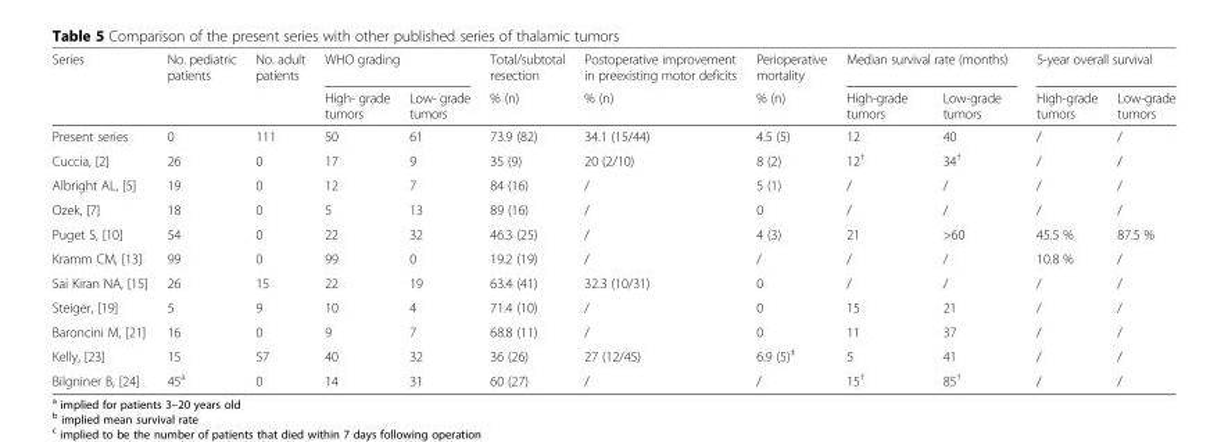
<table><thead><tr><td rowspan="2">Series</td><td rowspan="2">No. pediatric patients</td><td rowspan="2">No. adult patients</td><td colspan="2">WHO grading</td><td rowspan="2">Total/subtotal resection % (n)</td><td rowspan="2">Postoperative improvement in preexisting motor deficits % (n)</td><td rowspan="2">Perioperative mortality % (n)</td><td colspan="2">Median survival rate (months)</td><td colspan="2">5-year overall survival</td></tr><tr><td>High- grade tumors</td><td>Low- grade tumors</td><td>High-grade tumors</td><td>Low-grade tumors</td><td>High-grade tumors</td><td>Low-grade tumors</td></tr></thead><tbody><tr><td>Present series</td><td>0</td><td>111</td><td>50</td><td>61</td><td>73.9 (82)</td><td>34.1 (15/44)</td><td>4.5 (5)</td><td>12</td><td>40</td><td>/</td><td>/</td></tr><tr><td>Cuccia, [2]</td><td>26</td><td>0</td><td>17</td><td>9</td><td>35 (9)</td><td>20 (2/10)</td><td>8 (2)</td><td>12<sup>†</sup></td><td>34<sup>†</sup></td><td>/</td><td>/</td></tr><tr><td>Albright AL, [5]</td><td>19</td><td>0</td><td>12</td><td>7</td><td>84 (16)</td><td>/</td><td>5 (1)</td><td>/</td><td>/</td><td>/</td><td>/</td></tr><tr><td>Ozek, [7]</td><td>18</td><td>0</td><td>5</td><td>13</td><td>89 (16)</td><td>/</td><td>0</td><td>/</td><td>/</td><td>/</td><td>/</td></tr><tr><td>Puget S, [10]</td><td>54</td><td>0</td><td>22</td><td>32</td><td>46.3 (25)</td><td>/</td><td>4 (3)</td><td>21</td><td>&gt;60</td><td>45.5 %</td><td>87.5 %</td></tr><tr><td>Kramm CM, [13]</td><td>99</td><td>0</td><td>99</td><td>0</td><td>19.2 (19)</td><td>/</td><td>/</td><td>/</td><td>/</td><td>10.8 %</td><td>/</td></tr><tr><td>Sai Kiran NA, [15]</td><td>26</td><td>15</td><td>22</td><td>19</td><td>63.4 (41)</td><td>32.3 (10/31)</td><td>0</td><td>/</td><td>/</td><td>/</td><td>/</td></tr><tr><td>Steiger, [19]</td><td>5</td><td>9</td><td>10</td><td>4</td><td>71.4 (10)</td><td>/</td><td>0</td><td>15</td><td>21</td><td>/</td><td>/</td></tr><tr><td>Baroncini M, [21]</td><td>16</td><td>0</td><td>9</td><td>7</td><td>68.8 (11)</td><td>/</td><td>0</td><td>11</td><td>37</td><td>/</td><td>/</td></tr><tr><td>Kelly, [23]</td><td>15</td><td>57</td><td>40</td><td>32</td><td>36 (26)</td><td>27 (12/45)</td><td>6.9 (5)<sup>‡</sup></td><td>5</td><td>41</td><td>/</td><td>/</td></tr><tr><td>Bilgniner B, [24]</td><td>45<sup>a</sup></td><td>0</td><td>14</td><td>31</td><td>60 (27)</td><td>/</td><td>/</td><td>15<sup>†</sup></td><td>85<sup>†</sup></td><td>/</td><td>/</td></tr></tbody></table>